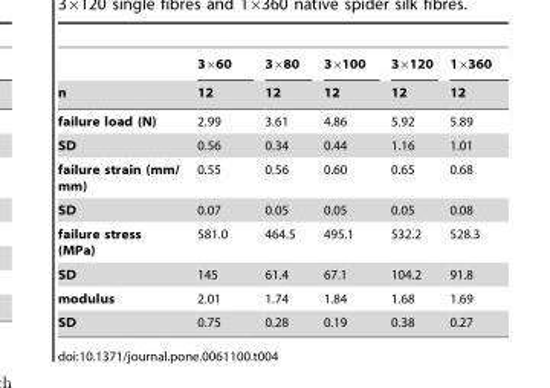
<table><thead><tr><td rowspan="2">n</td><td rowspan="2">3×60 12</td><td rowspan="2">3×80 12</td><td rowspan="2">3×100 12</td><td rowspan="2">3×120 12</td><td rowspan="2">1×360 12</td></tr><tr></tr></thead><tbody><tr><td>failure load (N)</td><td>2.99</td><td>3.61</td><td>4.86</td><td>5.92</td><td>5.89</td></tr><tr><td>SD</td><td>0.56</td><td>0.34</td><td>0.44</td><td>1.16</td><td>1.01</td></tr><tr><td>failure strain (mm/ mm)</td><td>0.55</td><td>0.56</td><td>0.60</td><td>0.65</td><td>0.68</td></tr><tr><td>SD</td><td>0.07</td><td>0.05</td><td>0.05</td><td>0.05</td><td>0.08</td></tr><tr><td>failure stress (MPa)</td><td>581.0</td><td>464.5</td><td>495.1</td><td>532.2</td><td>528.3</td></tr><tr><td>SD</td><td>145</td><td>61.4</td><td>67.1</td><td>104.2</td><td>91.8</td></tr><tr><td>modulus</td><td>2.01</td><td>1.74</td><td>1.84</td><td>1.68</td><td>1.69</td></tr><tr><td>SD</td><td>0.75</td><td>0.28</td><td>0.19</td><td>0.38</td><td>0.27</td></tr></tbody></table>